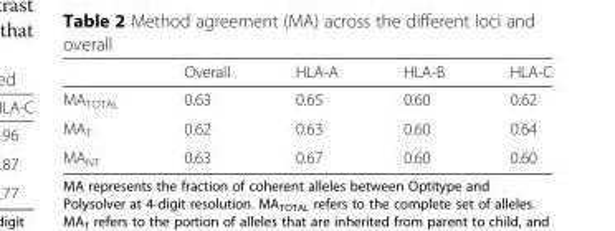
<table><thead><tr><td></td><td>Overall</td><td>HLA-A</td><td>HLA-B</td><td>HLA-C</td></tr></thead><tbody><tr><td>MA<sub>TOTAL</sub></td><td>0.63</td><td>0.65</td><td>0.60</td><td>0.62</td></tr><tr><td>MA<sub>T</sub></td><td>0.62</td><td>0.63</td><td>0.60</td><td>0.64</td></tr><tr><td>MA<sub>NT</sub></td><td>0.63</td><td>0.67</td><td>0.60</td><td>0.60</td></tr></tbody></table>